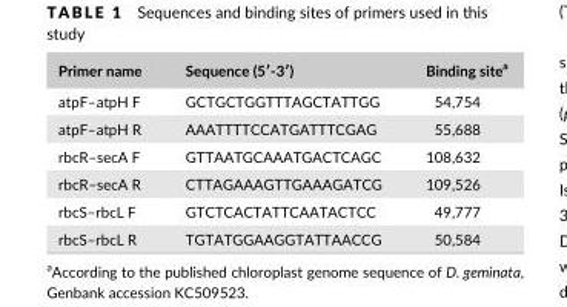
<table><thead><tr><td>Primer name</td><td>Sequence (5′- 3′)</td><td>Binding site<sup>a</sup></td></tr></thead><tbody><tr><td>atpF–atpH F</td><td>GCTGCTGGTTTAGCTATTGG</td><td>54,754</td></tr><tr><td>atpF–atpH R</td><td>AAATTTTCCATGATTTCGAG</td><td>55,688</td></tr><tr><td>rbcR–secA F</td><td>GTTAATGCAAATGACTCAGC</td><td>108,632</td></tr><tr><td>rbcR–secA R</td><td>CTTAGAAAGTTGAAAGATCG</td><td>109,526</td></tr><tr><td>rbcS–rbcL F</td><td>GTCTCACTATTCAATACTCC</td><td>49,777</td></tr><tr><td>rbcS–rbcL R</td><td>TGTATGGAAGGTATTAACCG</td><td>50,584</td></tr></tbody></table>